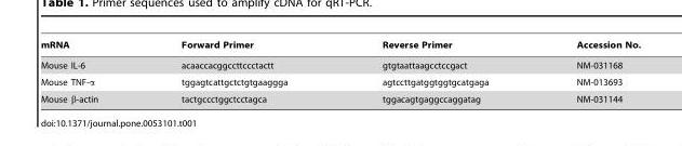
<table><thead><tr><td>mRNA</td><td>Forward Primer</td><td>Reverse Primer</td><td>Accession No.</td></tr></thead><tbody><tr><td>Mouse IL-6</td><td>acaaccacggccttccctactt</td><td>gtgtaattaagcctccgact</td><td>NM-031168</td></tr><tr><td>Mouse TNF-α</td><td>tggagtcattgctctgtgaaggga</td><td>agtccttgatggtggtgcatgaga</td><td>NM-013693</td></tr><tr><td>Mouse β-actin</td><td>tactgccctggctcctagca</td><td>tggacagtgaggccaggatag</td><td>NM-031144</td></tr></tbody></table>